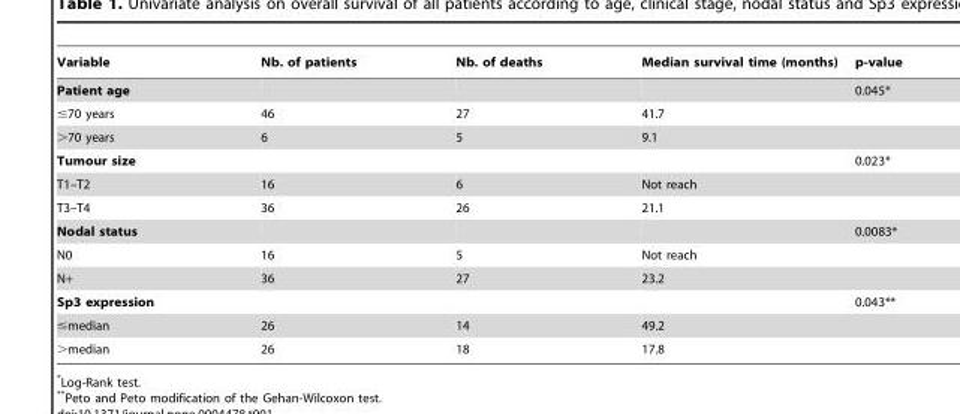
<table><thead><tr><td>Variable</td><td>Nb. of patients</td><td>Nb. of deaths</td><td>Median survival time (months)</td><td>p-value</td></tr></thead><tbody><tr><td>Patient age</td><td></td><td></td><td></td><td>0.045*</td></tr><tr><td>≤70 years</td><td>46</td><td>27</td><td>41.7</td><td></td></tr><tr><td>&gt;70 years</td><td>6</td><td>5</td><td>9.1</td><td></td></tr><tr><td>Tumour size</td><td></td><td></td><td></td><td>0.023*</td></tr><tr><td>T1–T2</td><td>16</td><td>6</td><td>Not reach</td><td></td></tr><tr><td>T3–T4</td><td>36</td><td>26</td><td>21.1</td><td></td></tr><tr><td>Nodal status</td><td></td><td></td><td></td><td>0.0083*</td></tr><tr><td>N0</td><td>16</td><td>5</td><td>Not reach</td><td></td></tr><tr><td>N+</td><td>36</td><td>27</td><td>23.2</td><td></td></tr><tr><td>Sp3 expression</td><td></td><td></td><td></td><td>0.043**</td></tr><tr><td>≤median</td><td>26</td><td>14</td><td>49.2</td><td></td></tr><tr><td>&gt;median</td><td>26</td><td>18</td><td>17.8</td><td></td></tr></tbody></table>